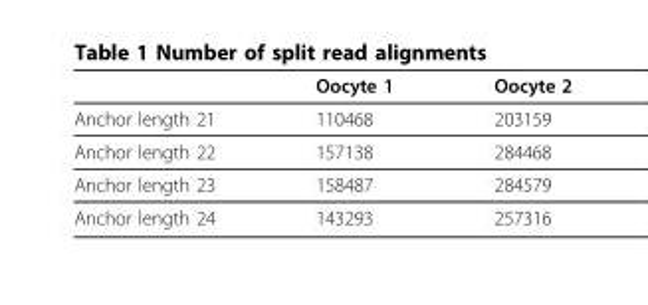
<table><thead><tr><td></td><td>Oocyte 1</td><td>Oocyte 2</td></tr></thead><tbody><tr><td>Anchor length 21</td><td>110468</td><td>203159</td></tr><tr><td>Anchor length 22</td><td>157138</td><td>284468</td></tr><tr><td>Anchor length 23</td><td>158487</td><td>284579</td></tr><tr><td>Anchor length 24</td><td>143293</td><td>257316</td></tr></tbody></table>